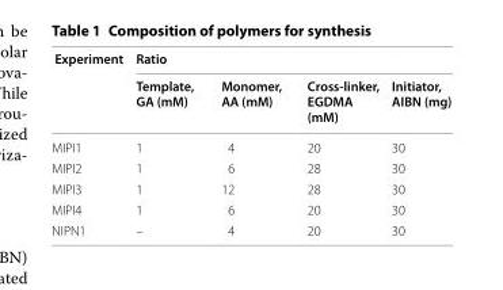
<table><thead><tr><td rowspan="2">Experiment</td><td colspan="4">Ratio</td></tr><tr><td>Template, GA (mM)</td><td>Monomer, AA (mM)</td><td>Cross‑linker, EGDMA (mM)</td><td>Initiator, AIBN (mg)</td></tr></thead><tbody><tr><td>MIPI1</td><td>1</td><td>4</td><td>20</td><td>30</td></tr><tr><td>MIPI2</td><td>1</td><td>6</td><td>28</td><td>30</td></tr><tr><td>MIPI3</td><td>1</td><td>12</td><td>28</td><td>30</td></tr><tr><td>MIPI4</td><td>1</td><td>6</td><td>20</td><td>30</td></tr><tr><td>NIPN1</td><td>–</td><td>4</td><td>20</td><td>30</td></tr></tbody></table>